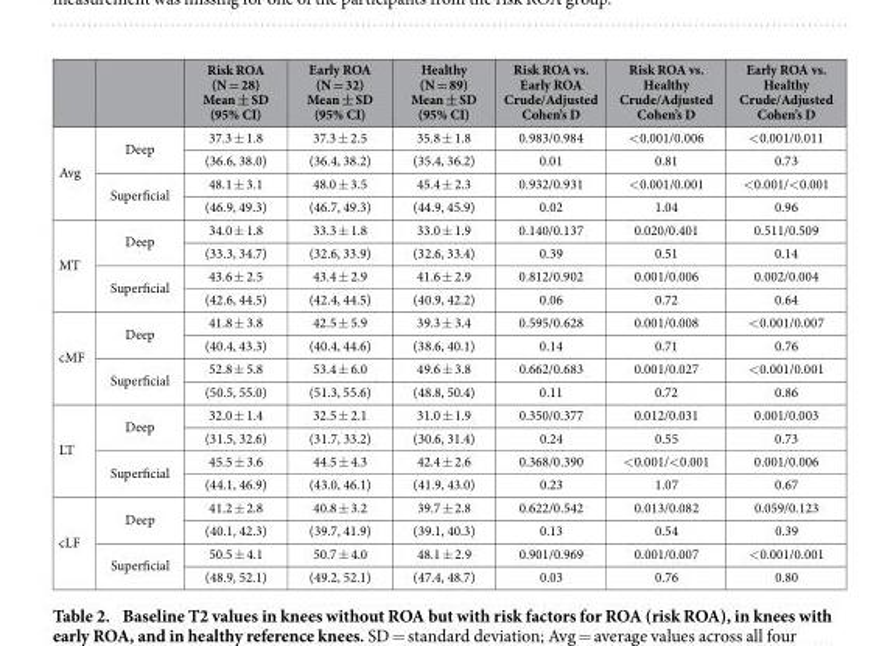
<table><thead><tr><td></td><td></td><td>Risk ROA (N = 28) Mean ± SD (95% CI)</td><td>Early ROA (N = 32) Mean ± SD (95% CI)</td><td>Healthy (N = 89) Mean ± SD (95% CI)</td><td>Risk ROA vs. Early ROA Crude/Adjusted Cohen’s D</td><td>Risk ROA vs. Healthy Crude/Adjusted Cohen’s D</td><td>Early ROA vs. Healthy Crude/Adjusted Cohen’s D</td></tr></thead><tbody><tr><td rowspan="4">Avg</td><td rowspan="2">Deep</td><td>37.3 ± 1.8</td><td>37.3 ± 2.5</td><td>35.8 ± 1.8</td><td>0.983/0.984</td><td>&lt; 0.001/0.006</td><td>&lt; 0.001/0.011</td></tr><tr><td>(36.6, 38.0)</td><td>(36.4, 38.2)</td><td>(35.4, 36.2)</td><td>0.01</td><td>0.81</td><td>0.73</td></tr><tr><td rowspan="2">Superficial</td><td>48.1 ± 3.1</td><td>48.0 ± 3.5</td><td>45.4 ± 2.3</td><td>0.932/0.931</td><td>&lt; 0.001/0.001</td><td>&lt; 0.001/&lt; 0.001</td></tr><tr><td>(46.9, 49.3)</td><td>(46.7, 49.3)</td><td>(44.9, 45.9)</td><td>0.02</td><td>1.04</td><td>0.96</td></tr><tr><td rowspan="4">MT</td><td rowspan="2">Deep</td><td>34.0 ± 1.8</td><td>33.3 ± 1.8</td><td>33.0 ± 1.9</td><td>0.140/0.137</td><td>0.020/0.401</td><td>0.511/0.509</td></tr><tr><td>(33.3, 34.7)</td><td>(32.6, 33.9)</td><td>(32.6, 33.4)</td><td>0.39</td><td>0.51</td><td>0.14</td></tr><tr><td rowspan="2">Superficial</td><td>43.6 ± 2.5</td><td>43.4 ± 2.9</td><td>41.6 ± 2.9</td><td>0.812/0.902</td><td>0.001/0.006</td><td>0.002/0.004</td></tr><tr><td>(42.6, 44.5)</td><td>(42.4, 44.5)</td><td>(40.9, 42.2)</td><td>0.06</td><td>0.72</td><td>0.64</td></tr><tr><td rowspan="4">cMF</td><td rowspan="2">Deep</td><td>41.8 ± 3.8</td><td>42.5 ± 5.9</td><td>39.3 ± 3.4</td><td>0.595/0.628</td><td>0.001/0.008</td><td>&lt; 0.001/0.007</td></tr><tr><td>(40.4, 43.3)</td><td>(40.4, 44.6)</td><td>(38.6, 40.1)</td><td>0.14</td><td>0.71</td><td>0.76</td></tr><tr><td rowspan="2">Superficial</td><td>52.8 ± 5.8</td><td>53.4 ± 6.0</td><td>49.6 ± 3.8</td><td>0.662/0.683</td><td>0.001/0.027</td><td>&lt; 0.001/0.001</td></tr><tr><td>(50.5, 55.0)</td><td>(51.3, 55.6)</td><td>(48.8, 50.4)</td><td>0.11</td><td>0.72</td><td>0.86</td></tr><tr><td rowspan="4">LT</td><td rowspan="2">Deep</td><td>32.0 ± 1.4</td><td>32.5 ± 2.1</td><td>31.0 ± 1.9</td><td>0.350/0.377</td><td>0.012/0.031</td><td>0.001/0.003</td></tr><tr><td>(31.5, 32.6)</td><td>(31.7, 33.2)</td><td>(30.6, 31.4)</td><td>0.24</td><td>0.55</td><td>0.73</td></tr><tr><td rowspan="2">Superficial</td><td>45.5 ± 3.6</td><td>44.5 ± 4.3</td><td>42.4 ± 2.6</td><td>0.368/0.390</td><td>&lt; 0.001/&lt; 0.001</td><td>0.001/0.006</td></tr><tr><td>(44.1, 46.9)</td><td>(43.0, 46.1)</td><td>(41.9, 43.0)</td><td>0.23</td><td>1.07</td><td>0.67</td></tr><tr><td rowspan="4">cLF</td><td rowspan="2">Deep</td><td>41.2 ± 2.8</td><td>40.8 ± 3.2</td><td>39.7 ± 2.8</td><td>0.622/0.542</td><td>0.013/0.082</td><td>0.059/0.123</td></tr><tr><td>(40.1, 42.3)</td><td>(39.7, 41.9)</td><td>(39.1, 40.3)</td><td>0.13</td><td>0.54</td><td>0.39</td></tr><tr><td rowspan="2">Superficial</td><td>50.5 ± 4.1</td><td>50.7 ± 4.0</td><td>48.1 ± 2.9</td><td>0.901/0.969</td><td>0.001/0.007</td><td>&lt; 0.001/0.001</td></tr><tr><td>(48.9, 52.1)</td><td>(49.2, 52.1)</td><td>(47.4, 48.7)</td><td>0.03</td><td>0.76</td><td>0.80</td></tr></tbody></table>